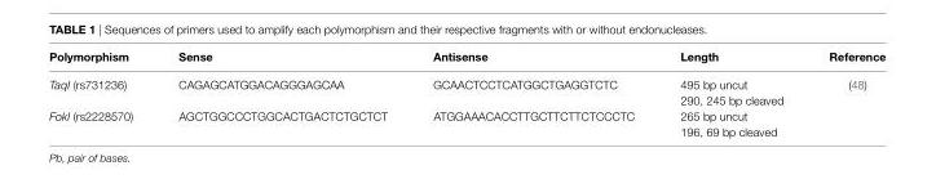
<table><thead><tr><td>Polymorphism</td><td>sense</td><td>antisense</td><td>length</td><td>reference</td></tr></thead><tbody><tr><td rowspan="2">TaqI (rs731236)</td><td rowspan="2">CAGAGCATGGACAGGGAGCAA</td><td rowspan="2">GCAACTCCTCATGGCTGAGGTCTC</td><td>495 bp uncut</td><td rowspan="4">(48)</td></tr><tr><td>290, 245 bp cleaved</td></tr><tr><td rowspan="2">FokI (rs2228570)</td><td rowspan="2">AGCTGGCCCTGGCACTGACTCTGCTCT</td><td rowspan="2">ATGGAAACACCTTGCTTCTTCTCCCTC</td><td>265 bp uncut</td></tr><tr><td>196, 69 bp cleaved</td></tr></tbody></table>